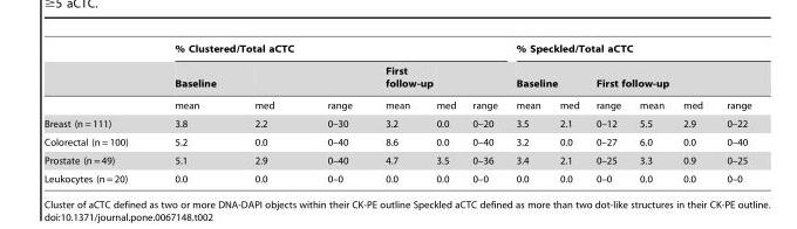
<table><thead><tr><td rowspan="3"></td><td colspan="6">% Clustered/Total aCTC</td><td colspan="6">% Speckled/Total aCTC</td></tr><tr><td rowspan="2">Baseline mean</td><td rowspan="2">med</td><td rowspan="2">range</td><td rowspan="2">First follow-up mean</td><td rowspan="2">med</td><td rowspan="2">range</td><td colspan="2">Baseline</td><td colspan="4">First follow-up</td></tr><tr><td>mean</td><td>med</td><td>range</td><td>mean</td><td>med</td><td>range</td></tr></thead><tbody><tr><td>Breast (n = 111)</td><td>3.8</td><td>2.2</td><td>0–30</td><td>3.2</td><td>0.0</td><td>0–20</td><td>3.5</td><td>2.1</td><td>0–12</td><td>5.5</td><td>2.9</td><td>0–22</td></tr><tr><td>Colorectal (n = 100)</td><td>5.2</td><td>0.0</td><td>0–40</td><td>8.6</td><td>0.0</td><td>0–40</td><td>3.2</td><td>0.0</td><td>0–27</td><td>6.0</td><td>0.0</td><td>0–40</td></tr><tr><td>Prostate (n = 49)</td><td>5.1</td><td>2.9</td><td>0–40</td><td>4.7</td><td>3.5</td><td>0–36</td><td>3.4</td><td>2.1</td><td>0–25</td><td>3.3</td><td>0.9</td><td>0–25</td></tr><tr><td>Leukocytes (n = 20)</td><td>0.0</td><td>0.0</td><td>0–0</td><td>0.0</td><td>0.0</td><td>0–0</td><td>0.0</td><td>0.0</td><td>0–0</td><td>0.0</td><td>0.0</td><td>0–0</td></tr></tbody></table>